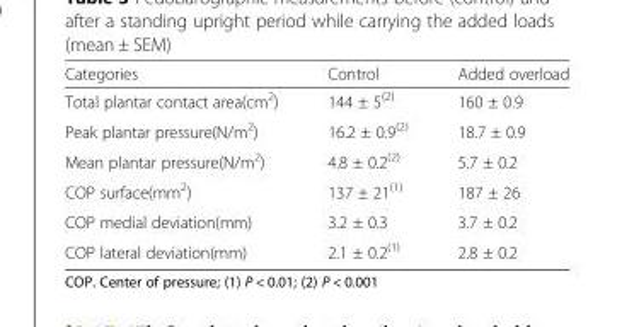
<table><thead><tr><td>Categories</td><td>Control</td><td>Added overload</td></tr></thead><tbody><tr><td>Total plantar contact area(cm<sup>2</sup>)</td><td>144 ± 5<sup>(2)</sup></td><td>160 ± 0.9</td></tr><tr><td>Peak plantar pressure(N/m<sup>2</sup>)</td><td>16.2 ± 0.9<sup>(2)</sup></td><td>18.7 ± 0.9</td></tr><tr><td>Mean plantar pressure(N/m<sup>2</sup>)</td><td>4.8 ± 0.2<sup>(2)</sup></td><td>5.7 ± 0.2</td></tr><tr><td>COP surface(mm<sup>2</sup>)</td><td>137 ± 21<sup>(1)</sup></td><td>187 ± 26</td></tr><tr><td>COP medial deviation(mm)</td><td>3.2 ± 0.3</td><td>3.7 ± 0.2</td></tr><tr><td>COP lateral deviation(mm)</td><td>2.1 ± 0.2<sup>(1)</sup></td><td>2.8 ± 0.2</td></tr></tbody></table>